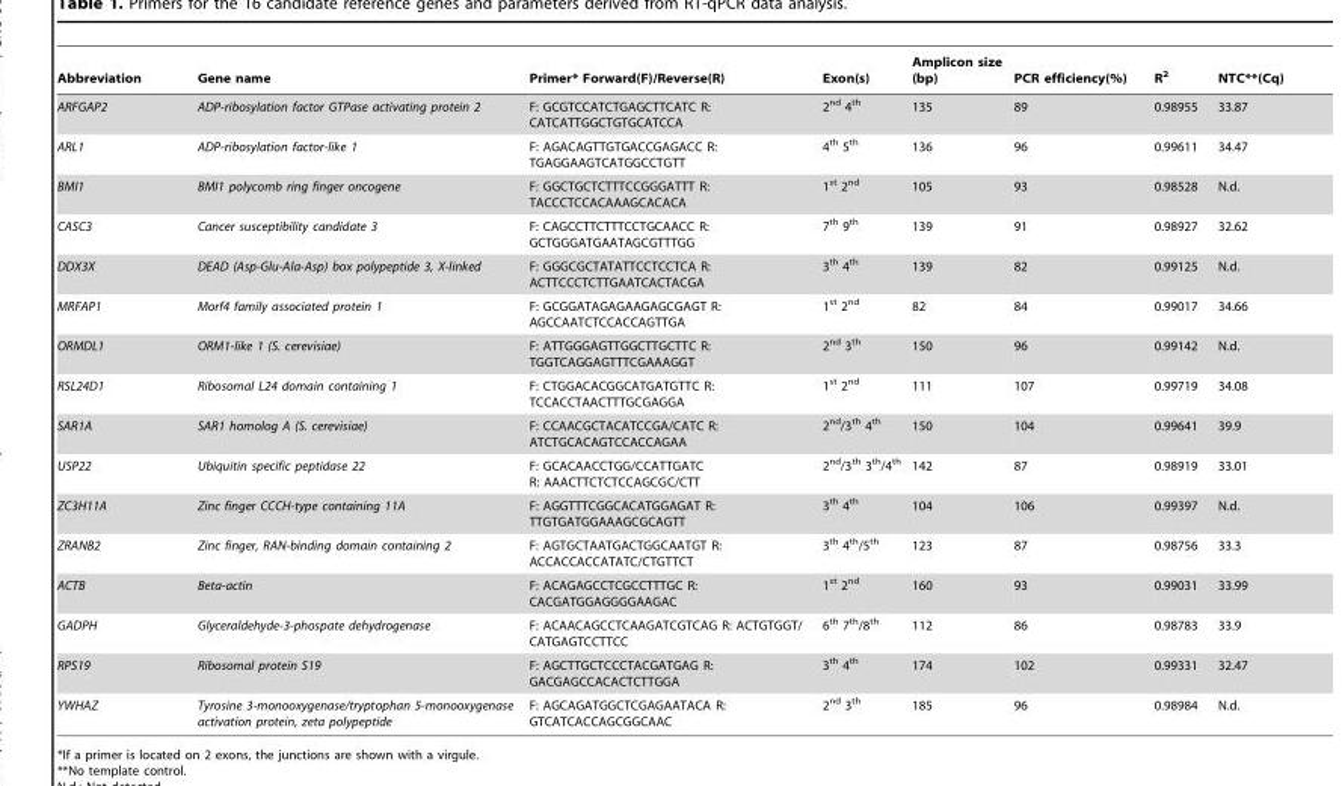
<table><thead><tr><td>Abbreviation</td><td>Gene name</td><td>Primer* Forward(F)/Reverse(R)</td><td>Exon(s)</td><td>Amplicon size (bp)</td><td>PCR efficiency(%)</td><td>R<sup>2</sup></td><td>NTC**(Cq)</td></tr></thead><tbody><tr><td>ARFGAP2</td><td>ADP-ribosylation factor GTPase activating protein 2</td><td>F: GCGTCCATCTGAGCTTCATC R: CATCATTGGCTGTGCATCCA</td><td>2<sup>nd</sup> 4<sup>th</sup></td><td>135</td><td>89</td><td>0.98955</td><td>33.87</td></tr><tr><td>ARL1</td><td>ADP-ribosylation factor-like 1</td><td>F: AGACAGTTGTGACCGAGACC R: TGAGGAAGTCATGGCCTGTT</td><td>4<sup>th</sup> 5<sup>th</sup></td><td>136</td><td>96</td><td>0.99611</td><td>34.47</td></tr><tr><td>BMI1</td><td>BMI1 polycomb ring finger oncogene</td><td>F: GGCTGCTCTTTCCGGGATTT R: TACCCTCCACAAAGCACACA</td><td>1<sup>st</sup> 2<sup>nd</sup></td><td>105</td><td>93</td><td>0.98528</td><td>N.d.</td></tr><tr><td>CASC3</td><td>Cancer susceptibility candidate 3</td><td>F: CAGCCTTCTTTCCTGCAACC R: GCTGGGATGAATAGCGTTTGG</td><td>7<sup>th</sup> 9<sup>th</sup></td><td>139</td><td>91</td><td>0.98927</td><td>32.62</td></tr><tr><td>DDX3X</td><td>DEAD (Asp-Glu-Ala-Asp) box polypeptide 3, X-linked</td><td>F: GGGCGCTATATTCCTCCTCA R: ACTTCCCTCTTGAATCACTACGA</td><td>3<sup>th</sup> 4<sup>th</sup></td><td>139</td><td>82</td><td>0.99125</td><td>N.d.</td></tr><tr><td>MRFAP1</td><td>Morf4 family associated protein 1</td><td>F: GCGGATAGAGAAGAGCGAGT R: AGCCAATCTCCACCAGTTGA</td><td>1<sup>st</sup> 2<sup>nd</sup></td><td>82</td><td>84</td><td>0.99017</td><td>34.66</td></tr><tr><td>ORMDL1</td><td>ORM1-like 1 (S. cerevisiae)</td><td>F: ATTGGGAGTTGGCTTGCTTC R: TGGTCAGGAGTTTCGAAAGGT</td><td>2<sup>nd</sup> 3<sup>th</sup></td><td>150</td><td>96</td><td>0.99142</td><td>N.d.</td></tr><tr><td>RSL24D1</td><td>Ribosomal L24 domain containing 1</td><td>F: CTGGACACGGCATGATGTTC R: TCCACCTAACTTTGCGAGGA</td><td>1<sup>st</sup> 2<sup>nd</sup></td><td>111</td><td>107</td><td>0.99719</td><td>34.08</td></tr><tr><td>SAR1A</td><td>SAR1 homolog A (S. cerevisiae)</td><td>F: CCAACGCTACATCCGA/CATC R: ATCTGCACAGTCCACCAGAA</td><td>2<sup>nd</sup>/3<sup>th</sup> 4<sup>th</sup></td><td>150</td><td>104</td><td>0.99641</td><td>39.9</td></tr><tr><td>USP22</td><td>Ubiquitin specific peptidase 22</td><td>F: GCACAACCTGG/CCATTGATC R: AAACTTCTCTCCAGCGC/CTT</td><td>2<sup>nd</sup>/3<sup>th</sup> 3<sup>th</sup>/4<sup>th</sup></td><td>142</td><td>87</td><td>0.98919</td><td>33.01</td></tr><tr><td>ZC3H11A</td><td>Zinc finger CCCH-type containing 11A</td><td>F: AGGTTTCGGCACATGGAGAT R: TTGTGATGGAAAGCGCAGTT</td><td>3<sup>th</sup> 4<sup>th</sup></td><td>104</td><td>106</td><td>0.99397</td><td>N.d.</td></tr><tr><td>ZRANB2</td><td>Zinc finger, RAN-binding domain containing 2</td><td>F: AGTGCTAATGACTGGCAATGT R: ACCACCACCATATC/CTGTTCT</td><td>3<sup>th</sup> 4<sup>th</sup>/5<sup>th</sup></td><td>123</td><td>87</td><td>0.98756</td><td>33.3</td></tr><tr><td>ACTB</td><td>Beta-actin</td><td>F: ACAGAGCCTCGCCTTTGC R: CACGATGGAGGGGAAGAC</td><td>1<sup>st</sup> 2<sup>nd</sup></td><td>160</td><td>93</td><td>0.99031</td><td>33.99</td></tr><tr><td>GADPH</td><td>Glyceraldehyde-3-phospate dehydrogenase</td><td>F: ACAACAGCCTCAAGATCGTCAG R: ACTGTGGT/ CATGAGTCCTTCC</td><td>6<sup>th</sup> 7<sup>th</sup>/8<sup>th</sup></td><td>112</td><td>86</td><td>0.98783</td><td>33.9</td></tr><tr><td>RPS19</td><td>Ribosomal protein S19</td><td>F: AGCTTGCTCCCTACGATGAG R: GACGAGCCACACTCTTGGA</td><td>3<sup>th</sup> 4<sup>th</sup></td><td>174</td><td>102</td><td>0.99331</td><td>32.47</td></tr><tr><td>YWHAZ</td><td>Tyrosine 3-monooxygenase/tryptophan 5-monooxygenase activation protein, zeta polypeptide</td><td>F: AGCAGATGGCTCGAGAATACA R: GTCATCACCAGCGGCAAC</td><td>2<sup>nd</sup> 3<sup>th</sup></td><td>185</td><td>96</td><td>0.98984</td><td>N.d.</td></tr></tbody></table>